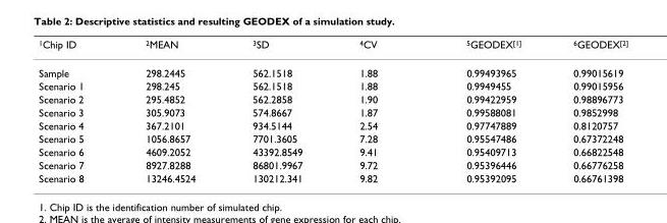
<table><thead><tr><td>1Chip ID</td><td>2MEAN</td><td>3SD</td><td>4CV</td><td>5GEODEX[1]</td><td>6GEODEX[2]</td></tr></thead><tbody><tr><td>Sample</td><td>298.2445</td><td>562.1518</td><td>1.88</td><td>0.99493965</td><td>0.99015619</td></tr><tr><td>Scenario 1</td><td>298.245</td><td>562.1518</td><td>1.88</td><td>0.9949455</td><td>0.99015956</td></tr><tr><td>Scenario 2</td><td>295.4852</td><td>562.2858</td><td>1.90</td><td>0.99422959</td><td>0.98896773</td></tr><tr><td>Scenario 3</td><td>305.9073</td><td>574.8667</td><td>1.87</td><td>0.99588081</td><td>0.9852998</td></tr><tr><td>Scenario 4</td><td>367.2101</td><td>934.5144</td><td>2.54</td><td>0.97747889</td><td>0.8120757</td></tr><tr><td>Scenario 5</td><td>1056.8657</td><td>7701.3605</td><td>7.28</td><td>0.95547486</td><td>0.67372248</td></tr><tr><td>Scenario 6</td><td>4609.2052</td><td>43392.8549</td><td>9.41</td><td>0.95409713</td><td>0.66822548</td></tr><tr><td>Scenario 7</td><td>8927.8288</td><td>86801.9967</td><td>9.72</td><td>0.95396446</td><td>0.66776258</td></tr><tr><td>Scenario 8</td><td>13246.4524</td><td>130212.341</td><td>9.82</td><td>0.95392095</td><td>0.66761398</td></tr></tbody></table>